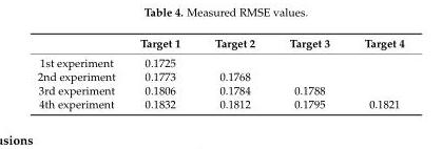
<table><thead><tr><td></td><td>Target 1</td><td>Target 2</td><td>Target 3</td><td>Target 4</td></tr></thead><tbody><tr><td>1st experiment</td><td>0.1725</td><td></td><td></td><td></td></tr><tr><td>2nd experiment</td><td>0.1773</td><td>0.1768</td><td></td><td></td></tr><tr><td>3rd experiment</td><td>0.1806</td><td>0.1784</td><td>0.1788</td><td></td></tr><tr><td>4th experiment</td><td>0.1832</td><td>0.1812</td><td>0.1795</td><td>0.1821</td></tr></tbody></table>